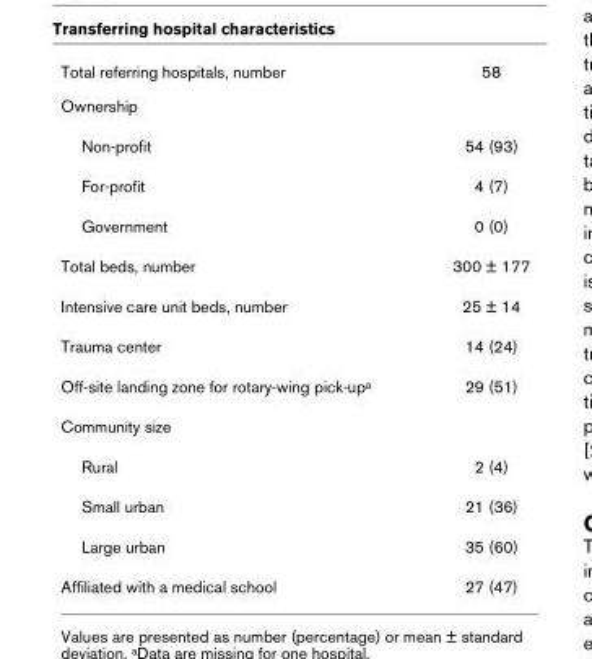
<table><tbody><tr><td>Total referring hospitals, number</td><td>58</td></tr><tr><td colspan="2">Ownership</td></tr><tr><td>Non-profit</td><td>54 (93)</td></tr><tr><td>For-profit</td><td>4 (7)</td></tr><tr><td>Government</td><td>0 (0)</td></tr><tr><td>Total beds, number</td><td>300 ± 177</td></tr><tr><td>Intensive care unit beds, number</td><td>25 ± 14</td></tr><tr><td>Trauma center</td><td>14 (24)</td></tr><tr><td>Off-site landing zone for rotary-wing pick-up<sup>a</sup></td><td>29 (51)</td></tr><tr><td colspan="2">Community size</td></tr><tr><td>Rural</td><td>2 (4)</td></tr><tr><td>Small urban</td><td>21 (36)</td></tr><tr><td>Large urban</td><td>35 (60)</td></tr><tr><td>Affiliated with a medical school</td><td>27 (47)</td></tr></tbody></table>